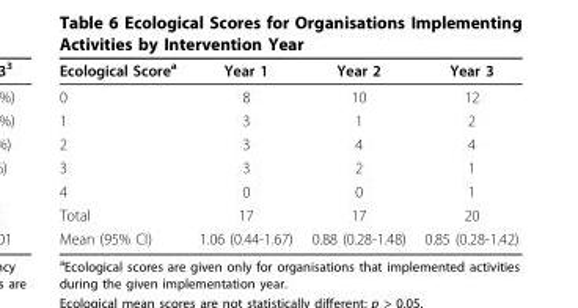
<table><thead><tr><td>Ecological Score<sup>a</sup></td><td>Year 1</td><td>Year 2</td><td>Year 3</td></tr></thead><tbody><tr><td>0</td><td>8</td><td>10</td><td>12</td></tr><tr><td>1</td><td>3</td><td>1</td><td>2</td></tr><tr><td>2</td><td>3</td><td>4</td><td>4</td></tr><tr><td>3</td><td>3</td><td>2</td><td>1</td></tr><tr><td>4</td><td>0</td><td>0</td><td>1</td></tr><tr><td>Total</td><td>17</td><td>17</td><td>20</td></tr><tr><td>Mean (95% CI)</td><td>1.06 (0.44-1.67)</td><td>0.88 (0.28-1.48)</td><td>0.85 (0.28-1.42)</td></tr></tbody></table>